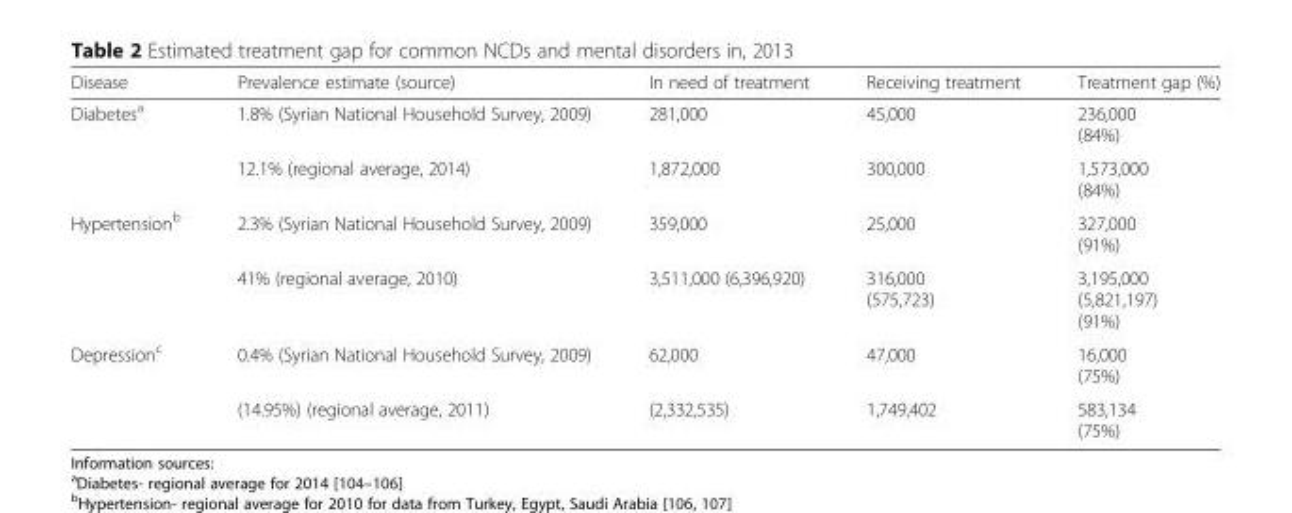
<table><thead><tr><td>Disease</td><td>Prevalence estimate (source)</td><td>In need of treatment</td><td>Receiving treatment</td><td>Treatment gap (%)</td></tr></thead><tbody><tr><td rowspan="2">Diabetes<sup>a</sup></td><td>1.8% (Syrian National Household Survey, 2009)</td><td>281,000</td><td>45,000</td><td>236,000 (84%)</td></tr><tr><td>12.1% (regional average, 2014)</td><td>1,872,000</td><td>300,000</td><td>1,573,000 (84%)</td></tr><tr><td rowspan="2">Hypertension<sup>b</sup></td><td>2.3% (Syrian National Household Survey, 2009)</td><td>359,000</td><td>25,000</td><td>327,000 (91%)</td></tr><tr><td>41% (regional average, 2010)</td><td>3,511,000 (6,396,920)</td><td>316,000 (575,723)</td><td>3,195,000 (5,821,197) (91%)</td></tr><tr><td rowspan="2">Depression<sup>c</sup></td><td>0.4% (Syrian National Household Survey, 2009)</td><td>62,000</td><td>47,000</td><td>16,000 (75%)</td></tr><tr><td>(14.95%) (regional average, 2011)</td><td>(2,332,535)</td><td>1,749,402</td><td>583,134 (75%)</td></tr></tbody></table>